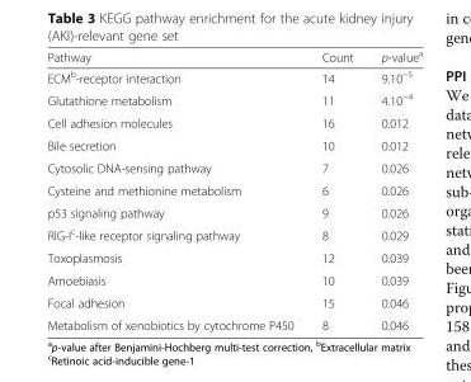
<table><thead><tr><td>Pathway</td><td>Count</td><td>p-value<sup>a</sup></td></tr></thead><tbody><tr><td>ECM<sup>b</sup>-receptor interaction</td><td>14</td><td>9.10<sup>−5</sup></td></tr><tr><td>Glutathione metabolism</td><td>11</td><td>4.10<sup>−4</sup></td></tr><tr><td>Cell adhesion molecules</td><td>16</td><td>0.012</td></tr><tr><td>Bile secretion</td><td>10</td><td>0.012</td></tr><tr><td>Cytosolic DNA-sensing pathway</td><td>7</td><td>0.026</td></tr><tr><td>Cysteine and methionine metabolism</td><td>6</td><td>0.026</td></tr><tr><td>p53 signaling pathway</td><td>9</td><td>0.026</td></tr><tr><td>RIG-I<sup>c</sup>-like receptor signaling pathway</td><td>8</td><td>0.029</td></tr><tr><td>Toxoplasmosis</td><td>12</td><td>0.039</td></tr><tr><td>Amoebiasis</td><td>10</td><td>0.039</td></tr><tr><td>Focal adhesion</td><td>15</td><td>0.046</td></tr><tr><td>Metabolism of xenobiotics by cytochrome P450</td><td>8</td><td>0.046</td></tr></tbody></table>